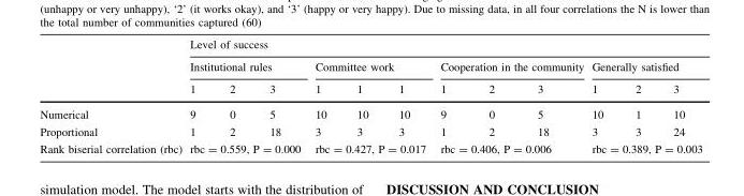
<table><thead><tr><td rowspan="3"></td><td colspan="12">Level of success</td></tr><tr><td colspan="3">Institutional rules</td><td colspan="3">Committee work</td><td colspan="3">Cooperation in the community</td><td colspan="3">Generally satisfied</td></tr><tr><td>1</td><td>2</td><td>3</td><td>1</td><td>1</td><td>1</td><td>1</td><td>2</td><td>3</td><td>1</td><td>2</td><td>3</td></tr></thead><tbody><tr><td>Numerical</td><td>9</td><td>0</td><td>5</td><td>10</td><td>10</td><td>10</td><td>9</td><td>0</td><td>5</td><td>10</td><td>1</td><td>10</td></tr><tr><td>Proportional</td><td>1</td><td>2</td><td>18</td><td>3</td><td>3</td><td>3</td><td>1</td><td>2</td><td>18</td><td>3</td><td>3</td><td>24</td></tr><tr><td>Rank biserial correlation (rbc)</td><td colspan="3">rbc = 0.559, P = 0.000</td><td colspan="3">rbc = 0.427, P = 0.017</td><td colspan="3">rbc = 0.406, P = 0.006</td><td colspan="3">rbc = 0.389, P = 0.003</td></tr></tbody></table>